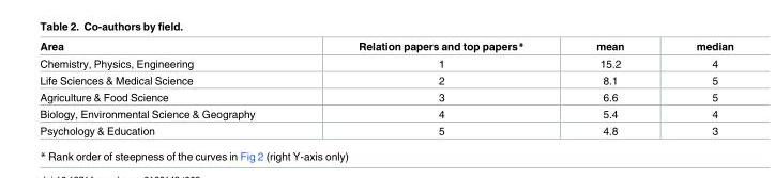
<table><thead><tr><td>Area</td><td>Relation papers and top papers*</td><td>mean</td><td>median</td></tr></thead><tbody><tr><td>Chemistry, Physics, Engineering</td><td>1</td><td>15.2</td><td>4</td></tr><tr><td>Life Sciences &amp; Medical Science</td><td>2</td><td>8.1</td><td>5</td></tr><tr><td>Agriculture &amp; Food Science</td><td>3</td><td>6.6</td><td>5</td></tr><tr><td>Biology, Environmental Science &amp; Geography</td><td>4</td><td>5.4</td><td>4</td></tr><tr><td>Psychology &amp; Education</td><td>5</td><td>4.8</td><td>3</td></tr></tbody></table>